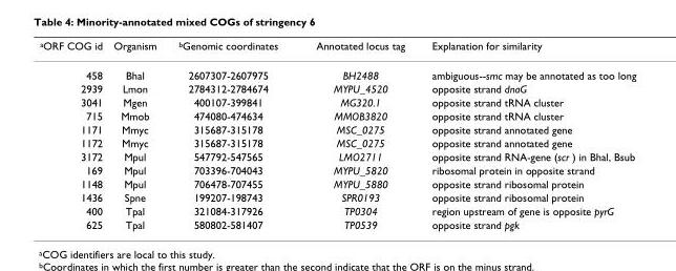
<table><thead><tr><td>aORF COG id</td><td>Organism</td><td>bGenomic coordinates</td><td>Annotated locus tag</td><td>Explanation for similarity</td></tr></thead><tbody><tr><td>458</td><td>Bhal</td><td>2607307-2607975</td><td>BH2488</td><td>ambiguous--smc may be annotated as too long</td></tr><tr><td>2939</td><td>Lmon</td><td>2784312-2784674</td><td>MYPU_4520</td><td>opposite strand dnaG</td></tr><tr><td>3041</td><td>Mgen</td><td>400107-399841</td><td>MG320.1</td><td>opposite strand tRNA cluster</td></tr><tr><td>715</td><td>Mmob</td><td>474080-474634</td><td>MMOB3820</td><td>opposite strand tRNA cluster</td></tr><tr><td>1171</td><td>Mmyc</td><td>315687-315178</td><td>MSC_0275</td><td>opposite strand annotated gene</td></tr><tr><td>1172</td><td>Mmyc</td><td>315687-315178</td><td>MSC_0275</td><td>opposite strand annotated gene</td></tr><tr><td>3172</td><td>Mpul</td><td>547792-547565</td><td>LMO2711</td><td>opposite strand RNA-gene (scr ) in Bhal, Bsub</td></tr><tr><td>169</td><td>Mpul</td><td>703396-704043</td><td>MYPU_5820</td><td>ribosomal protein in opposite strand</td></tr><tr><td>1148</td><td>Mpul</td><td>706478-707455</td><td>MYPU_5880</td><td>opposite strand ribosomal protein</td></tr><tr><td>1436</td><td>Spne</td><td>199207-198743</td><td>SPR0193</td><td>opposite strand ribosomal protein</td></tr><tr><td>400</td><td>Tpal</td><td>321084-317926</td><td>TP0304</td><td>region upstream of gene is opposite pyrG</td></tr><tr><td>625</td><td>Tpal</td><td>580802-581407</td><td>TP0539</td><td>opposite strand pgk</td></tr></tbody></table>